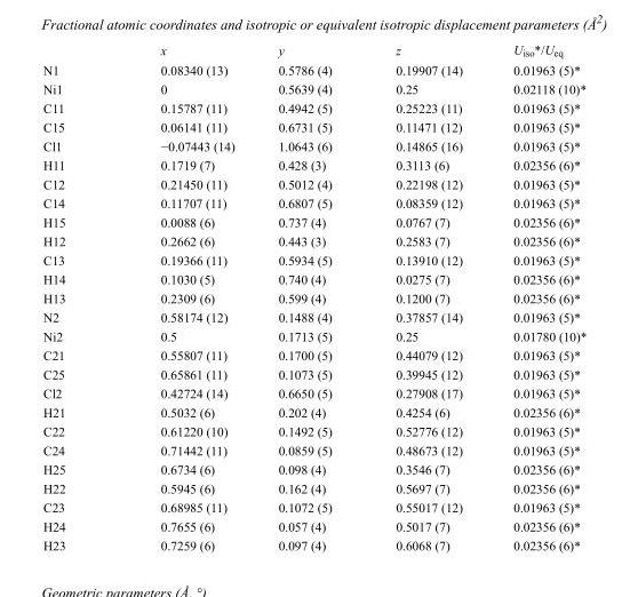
<table><thead><tr><td></td><td>x</td><td>y</td><td>z</td><td>U<sub>iso</sub>*/U<sub>eq</sub></td></tr></thead><tbody><tr><td>N1</td><td>0.08340 (13)</td><td>0.5786 (4)</td><td>0.19907 (14)</td><td>0.01963 (5)*</td></tr><tr><td>Ni1</td><td>0</td><td>0.5639 (4)</td><td>0.25</td><td>0.02118 (10)*</td></tr><tr><td>C11</td><td>0.15787 (11)</td><td>0.4942 (5)</td><td>0.25223 (11)</td><td>0.01963 (5)*</td></tr><tr><td>C15</td><td>0.06141 (11)</td><td>0.6731 (5)</td><td>0.11471 (12)</td><td>0.01963 (5)*</td></tr><tr><td>Cl1</td><td>−0.07443 (14)</td><td>1.0643 (6)</td><td>0.14865 (16)</td><td>0.01963 (5)*</td></tr><tr><td>H11</td><td>0.1719 (7)</td><td>0.428 (3)</td><td>0.3113 (6)</td><td>0.02356 (6)*</td></tr><tr><td>C12</td><td>0.21450 (11)</td><td>0.5012 (4)</td><td>0.22198 (12)</td><td>0.01963 (5)*</td></tr><tr><td>C14</td><td>0.11707 (11)</td><td>0.6807 (5)</td><td>0.08359 (12)</td><td>0.01963 (5)*</td></tr><tr><td>H15</td><td>0.0088 (6)</td><td>0.737 (4)</td><td>0.0767 (7)</td><td>0.02356 (6)*</td></tr><tr><td>H12</td><td>0.2662 (6)</td><td>0.443 (3)</td><td>0.2583 (7)</td><td>0.02356 (6)*</td></tr><tr><td>C13</td><td>0.19366 (11)</td><td>0.5934 (5)</td><td>0.13910 (12)</td><td>0.01963 (5)*</td></tr><tr><td>H14</td><td>0.1030 (5)</td><td>0.740 (4)</td><td>0.0275 (7)</td><td>0.02356 (6)*</td></tr><tr><td>H13</td><td>0.2309 (6)</td><td>0.599 (4)</td><td>0.1200 (7)</td><td>0.02356 (6)*</td></tr><tr><td>N2</td><td>0.58174 (12)</td><td>0.1488 (4)</td><td>0.37857 (14)</td><td>0.01963 (5)*</td></tr><tr><td>Ni2</td><td>0.5</td><td>0.1713 (5)</td><td>0.25</td><td>0.01780 (10)*</td></tr><tr><td>C21</td><td>0.55807 (11)</td><td>0.1700 (5)</td><td>0.44079 (12)</td><td>0.01963 (5)*</td></tr><tr><td>C25</td><td>0.65861 (11)</td><td>0.1073 (5)</td><td>0.39945 (12)</td><td>0.01963 (5)*</td></tr><tr><td>Cl2</td><td>0.42724 (14)</td><td>0.6650 (5)</td><td>0.27908 (17)</td><td>0.01963 (5)*</td></tr><tr><td>H21</td><td>0.5032 (6)</td><td>0.202 (4)</td><td>0.4254 (6)</td><td>0.02356 (6)*</td></tr><tr><td>C22</td><td>0.61220 (10)</td><td>0.1492 (5)</td><td>0.52776 (12)</td><td>0.01963 (5)*</td></tr><tr><td>C24</td><td>0.71442 (11)</td><td>0.0859 (5)</td><td>0.48673 (12)</td><td>0.01963 (5)*</td></tr><tr><td>H25</td><td>0.6734 (6)</td><td>0.098 (4)</td><td>0.3546 (7)</td><td>0.02356 (6)*</td></tr><tr><td>H22</td><td>0.5945 (6)</td><td>0.162 (4)</td><td>0.5697 (7)</td><td>0.02356 (6)*</td></tr><tr><td>C23</td><td>0.68985 (11)</td><td>0.1072 (5)</td><td>0.55017 (12)</td><td>0.01963 (5)*</td></tr><tr><td>H24</td><td>0.7655 (6)</td><td>0.057 (4)</td><td>0.5017 (7)</td><td>0.02356 (6)*</td></tr><tr><td>H23</td><td>0.7259 (6)</td><td>0.097 (4)</td><td>0.6068 (7)</td><td>0.02356 (6)*</td></tr></tbody></table>